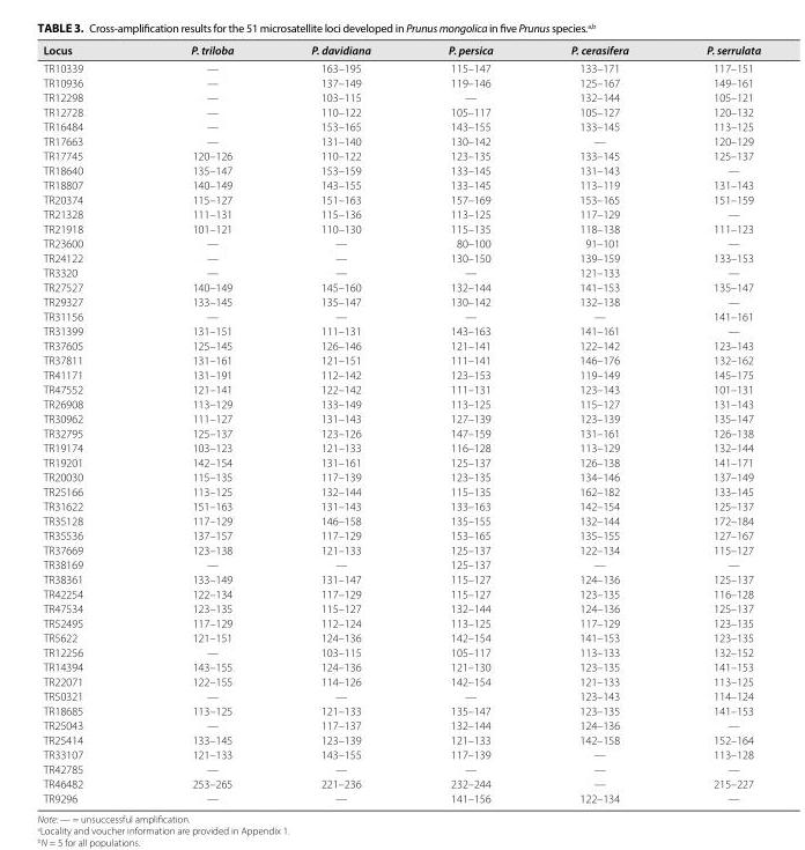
<table><thead><tr><td>Locus</td><td>P. triloba</td><td>P. davidiana</td><td>P. persica</td><td>P. cerasifera</td><td>P. serrulata</td></tr></thead><tbody><tr><td>TR10339</td><td>—</td><td>163–195</td><td>115–147</td><td>133–171</td><td>117–151</td></tr><tr><td>TR10936</td><td>—</td><td>137–149</td><td>119–146</td><td>125–167</td><td>149–161</td></tr><tr><td>TR12298</td><td>—</td><td>103–115</td><td>—</td><td>132–144</td><td>105–121</td></tr><tr><td>TR12728</td><td>—</td><td>110–122</td><td>105–117</td><td>105–127</td><td>120–132</td></tr><tr><td>TR16484</td><td>—</td><td>153–165</td><td>143–155</td><td>133–145</td><td>113–125</td></tr><tr><td>TR17663</td><td>—</td><td>131–140</td><td>130–142</td><td>—</td><td>120–129</td></tr><tr><td>TR17745</td><td>120–126</td><td>110–122</td><td>123–135</td><td>133–145</td><td>125–137</td></tr><tr><td>TR18640</td><td>135–147</td><td>153–159</td><td>133–145</td><td>131–143</td><td>—</td></tr><tr><td>TR18807</td><td>140–149</td><td>143–155</td><td>133–145</td><td>113–119</td><td>131–143</td></tr><tr><td>TR20374</td><td>115–127</td><td>151–163</td><td>157–169</td><td>153–165</td><td>151–159</td></tr><tr><td>TR21328</td><td>111–131</td><td>115–136</td><td>113–125</td><td>117–129</td><td>—</td></tr><tr><td>TR21918</td><td>101–121</td><td>110–130</td><td>115–135</td><td>118–138</td><td>111–123</td></tr><tr><td>TR23600</td><td>—</td><td>—</td><td>80–100</td><td>91–101</td><td>—</td></tr><tr><td>TR24122</td><td>—</td><td>—</td><td>130–150</td><td>139–159</td><td>133–153</td></tr><tr><td>TR3320</td><td>—</td><td>—</td><td>—</td><td>121–133</td><td>—</td></tr><tr><td>TR27527</td><td>140–149</td><td>145–160</td><td>132–144</td><td>141–153</td><td>135–147</td></tr><tr><td>TR29327</td><td>133–145</td><td>135–147</td><td>130–142</td><td>132–138</td><td>—</td></tr><tr><td>TR31156</td><td>—</td><td>—</td><td>—</td><td>—</td><td>141–161</td></tr><tr><td>TR31399</td><td>131–151</td><td>111–131</td><td>143–163</td><td>141–161</td><td>—</td></tr><tr><td>TR37605</td><td>125–145</td><td>126–146</td><td>121–141</td><td>122–142</td><td>123–143</td></tr><tr><td>TR37811</td><td>131–161</td><td>121–151</td><td>111–141</td><td>146–176</td><td>132–162</td></tr><tr><td>TR41171</td><td>131–191</td><td>112–142</td><td>123–153</td><td>119–149</td><td>145–175</td></tr><tr><td>TR47552</td><td>121–141</td><td>122–142</td><td>111–131</td><td>123–143</td><td>101–131</td></tr><tr><td>TR26908</td><td>113–129</td><td>133–149</td><td>113–125</td><td>115–127</td><td>131–143</td></tr><tr><td>TR30962</td><td>111–127</td><td>131–143</td><td>127–139</td><td>123–139</td><td>135–147</td></tr><tr><td>TR32795</td><td>125–137</td><td>123–126</td><td>147–159</td><td>131–161</td><td>126–138</td></tr><tr><td>TR19174</td><td>103–123</td><td>121–133</td><td>116–128</td><td>113–129</td><td>132–144</td></tr><tr><td>TR19201</td><td>142–154</td><td>131–161</td><td>125–137</td><td>126–138</td><td>141–171</td></tr><tr><td>TR20030</td><td>115–135</td><td>117–139</td><td>123–135</td><td>134–146</td><td>137–149</td></tr><tr><td>TR25166</td><td>113–125</td><td>132–144</td><td>115–135</td><td>162–182</td><td>133–145</td></tr><tr><td>TR31622</td><td>151–163</td><td>131–143</td><td>133–163</td><td>142–154</td><td>125–137</td></tr><tr><td>TR35128</td><td>117–129</td><td>146–158</td><td>135–155</td><td>132–144</td><td>172–184</td></tr><tr><td>TR35536</td><td>137–157</td><td>117–129</td><td>153–165</td><td>135–155</td><td>127–167</td></tr><tr><td>TR37669</td><td>123–138</td><td>121–133</td><td>125–137</td><td>122–134</td><td>115–127</td></tr><tr><td>TR38169</td><td>—</td><td>—</td><td>125–137</td><td>—</td><td>—</td></tr><tr><td>TR38361</td><td>133–149</td><td>131–147</td><td>115–127</td><td>124–136</td><td>125–137</td></tr><tr><td>TR42254</td><td>122–134</td><td>117–129</td><td>115–127</td><td>123–135</td><td>116–128</td></tr><tr><td>TR47534</td><td>123–135</td><td>115–127</td><td>132–144</td><td>124–136</td><td>125–137</td></tr><tr><td>TR52495</td><td>117–129</td><td>112–124</td><td>113–125</td><td>117–129</td><td>123–135</td></tr><tr><td>TR5622</td><td>121–151</td><td>124–136</td><td>142–154</td><td>141–153</td><td>123–135</td></tr><tr><td>TR12256</td><td>—</td><td>103–115</td><td>105–117</td><td>113–133</td><td>132–152</td></tr><tr><td>TR14394</td><td>143–155</td><td>124–136</td><td>121–130</td><td>123–135</td><td>141–153</td></tr><tr><td>TR22071</td><td>122–155</td><td>114–126</td><td>142–154</td><td>121–133</td><td>113–125</td></tr><tr><td>TR50321</td><td>—</td><td>—</td><td>—</td><td>123–143</td><td>114–124</td></tr><tr><td>TR18685</td><td>113–125</td><td>121–133</td><td>135–147</td><td>123–135</td><td>141–153</td></tr><tr><td>TR25043</td><td>—</td><td>117–137</td><td>132–144</td><td>124–136</td><td>—</td></tr><tr><td>TR25414</td><td>133–145</td><td>123–139</td><td>121–133</td><td>142–158</td><td>152–164</td></tr><tr><td>TR33107</td><td>121–133</td><td>143–155</td><td>117–139</td><td>—</td><td>113–128</td></tr><tr><td>TR42785</td><td>—</td><td>—</td><td>—</td><td>—</td><td>—</td></tr><tr><td>TR46482</td><td>253–265</td><td>221–236</td><td>232–244</td><td>—</td><td>215–227</td></tr><tr><td>TR9296</td><td>—</td><td>—</td><td>141–156</td><td>122–134</td><td>—</td></tr></tbody></table>